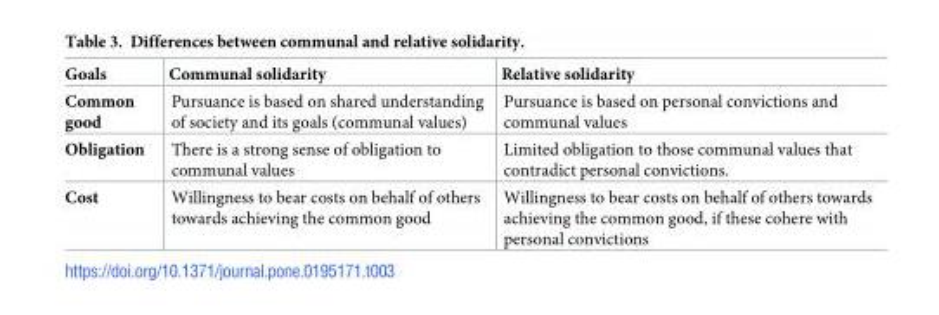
<table><thead><tr><td>Goals</td><td>Communal solidarity</td><td>Relative solidarity</td></tr></thead><tbody><tr><td>Common good</td><td>Pursuance is based on shared understanding of society and its goals (communal values)</td><td>Pursuance is based on personal convictions and communal values</td></tr><tr><td>Obligation</td><td>There is a strong sense of obligation to communal values</td><td>Limited obligation to those communal values that contradict personal convictions.</td></tr><tr><td>Cost</td><td>Willingness to bear costs on behalf of others towards achieving the common good</td><td>Willingness to bear costs on behalf of others towards achieving the common good, if these cohere with personal convictions</td></tr></tbody></table>